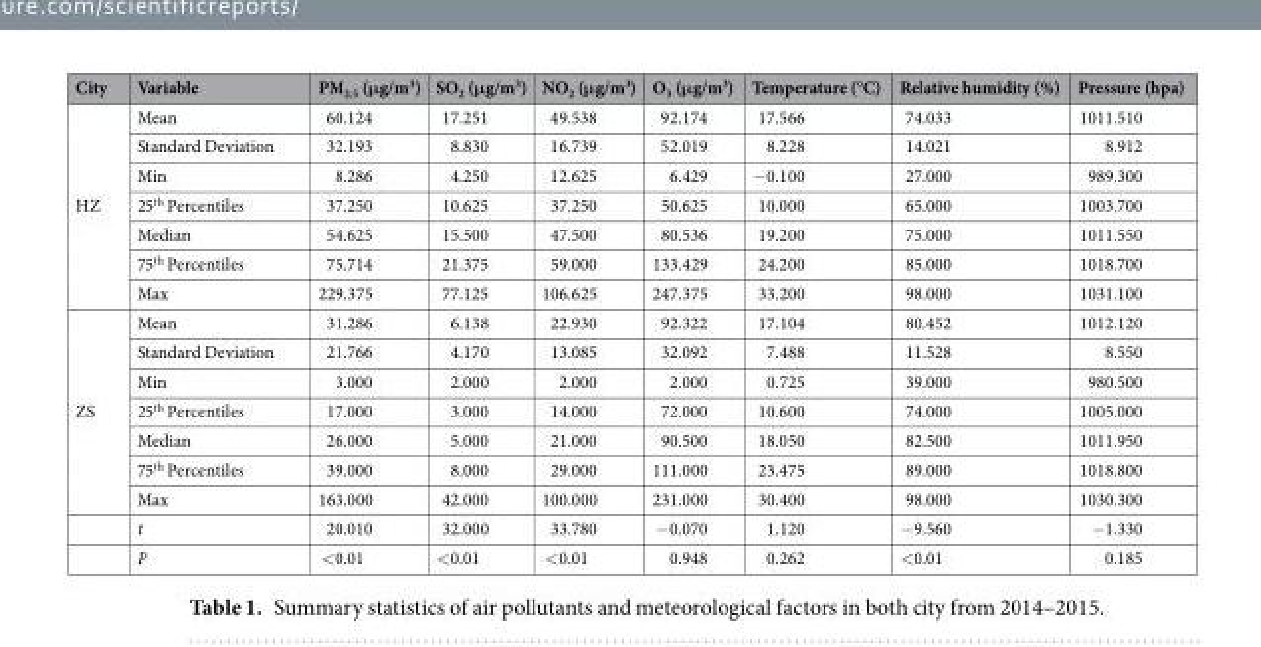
<table><thead><tr><td>City</td><td>Variable</td><td>PM<sub>2.5</sub> (μg/m<sup>3</sup>)</td><td>SO<sub>2</sub> (μg/m<sup>3</sup>)</td><td>NO<sub>2</sub> (μg/m<sup>3</sup>)</td><td>O<sub>3</sub> (μg/m<sup>3</sup>)</td><td>Temperature (°C)</td><td>Relative humidity (%)</td><td>Pressure (hpa)</td></tr></thead><tbody><tr><td rowspan="7">HZ</td><td>Mean</td><td>60.124</td><td>17.251</td><td>49.538</td><td>92.174</td><td>17.566</td><td>74.033</td><td>1011.510</td></tr><tr><td>Standard Deviation</td><td>32.193</td><td>8.830</td><td>16.739</td><td>52.019</td><td>8.228</td><td>14.021</td><td>8.912</td></tr><tr><td>Min</td><td>8.286</td><td>4.250</td><td>12.625</td><td>6.429</td><td>−0.100</td><td>27.000</td><td>989.300</td></tr><tr><td>25<sup>th</sup> Percentiles</td><td>37.250</td><td>10.625</td><td>37.250</td><td>50.625</td><td>10.000</td><td>65.000</td><td>1003.700</td></tr><tr><td>Median</td><td>54.625</td><td>15.500</td><td>47.500</td><td>80.536</td><td>19.200</td><td>75.000</td><td>1011.550</td></tr><tr><td>75<sup>th</sup> Percentiles</td><td>75.714</td><td>21.375</td><td>59.000</td><td>133.429</td><td>24.200</td><td>85.000</td><td>1018.700</td></tr><tr><td>Max</td><td>229.375</td><td>77.125</td><td>106.625</td><td>247.375</td><td>33.200</td><td>98.000</td><td>1031.100</td></tr><tr><td rowspan="9">ZS</td><td>Mean</td><td>31.286</td><td>6.138</td><td>22.930</td><td>92.322</td><td>17.104</td><td>80.452</td><td>1012.120</td></tr><tr><td>Standard Deviation</td><td>21.766</td><td>4.170</td><td>13.085</td><td>32.092</td><td>7.488</td><td>11.528</td><td>8.550</td></tr><tr><td>Min</td><td>3.000</td><td>2.000</td><td>2.000</td><td>2.000</td><td>0.725</td><td>39.000</td><td>980.500</td></tr><tr><td>25<sup>th</sup> Percentiles</td><td>17.000</td><td>3.000</td><td>14.000</td><td>72.000</td><td>10.600</td><td>74.000</td><td>1005.000</td></tr><tr><td>Median</td><td>26.000</td><td>5.000</td><td>21.000</td><td>90.500</td><td>18.050</td><td>82.500</td><td>1011.950</td></tr><tr><td>75<sup>th</sup> Percentiles</td><td>39.000</td><td>8.000</td><td>29.000</td><td>111.000</td><td>23.475</td><td>89.000</td><td>1018.800</td></tr><tr><td>Max</td><td>163.000</td><td>42.000</td><td>100.000</td><td>231.000</td><td>30.400</td><td>98.000</td><td>1030.300</td></tr><tr><td>t</td><td>20.010</td><td>32.000</td><td>33.780</td><td>−0.070</td><td>1.120</td><td>−9.560</td><td>−1.330</td></tr><tr><td>P</td><td>&lt;0.01</td><td>&lt;0.01</td><td>&lt;0.01</td><td>0.948</td><td>0.262</td><td>&lt;0.01</td><td>0.185</td></tr></tbody></table>